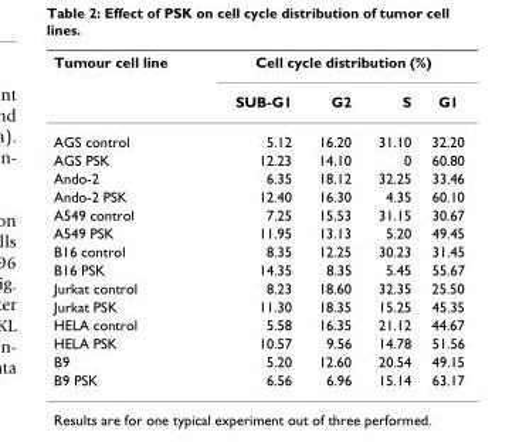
<table><thead><tr><td rowspan="2">Tumour cell line</td><td colspan="4">Cell cycle distribution (%)</td></tr><tr><td>SUB-G1</td><td>G2</td><td>S</td><td>G1</td></tr></thead><tbody><tr><td>AGS control</td><td>5.12</td><td>16.20</td><td>31.10</td><td>32.20</td></tr><tr><td>AGS PSK</td><td>12.23</td><td>14.10</td><td>0</td><td>60.80</td></tr><tr><td>Ando-2</td><td>6.35</td><td>18.12</td><td>32.25</td><td>33.46</td></tr><tr><td>Ando-2 PSK</td><td>12.40</td><td>16.30</td><td>4.35</td><td>60.10</td></tr><tr><td>A549 control</td><td>7.25</td><td>15.53</td><td>31.15</td><td>30.67</td></tr><tr><td>A549 PSK</td><td>11.95</td><td>13.13</td><td>5.20</td><td>49.45</td></tr><tr><td>B16 control</td><td>8.35</td><td>12.25</td><td>30.23</td><td>31.45</td></tr><tr><td>B16 PSK</td><td>14.35</td><td>8.35</td><td>5.45</td><td>55.67</td></tr><tr><td>Jurkat control</td><td>8.23</td><td>18.60</td><td>32.35</td><td>25.50</td></tr><tr><td>Jurkat PSK</td><td>11.30</td><td>18.35</td><td>15.25</td><td>45.35</td></tr><tr><td>HELA control</td><td>5.58</td><td>16.35</td><td>21.12</td><td>44.67</td></tr><tr><td>HELA PSK</td><td>10.57</td><td>9.56</td><td>14.78</td><td>51.56</td></tr><tr><td>B9</td><td>5.20</td><td>12.60</td><td>20.54</td><td>49.15</td></tr><tr><td>B9 PSK</td><td>6.56</td><td>6.96</td><td>15.14</td><td>63.17</td></tr></tbody></table>